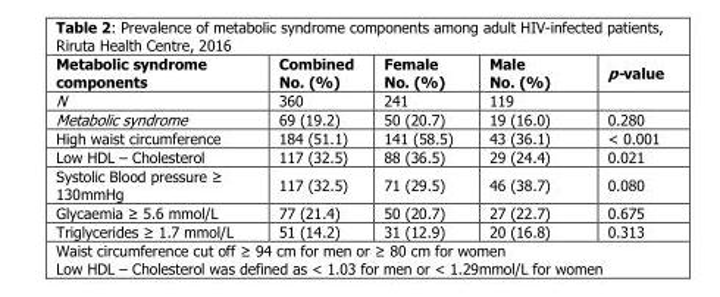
<table><thead><tr><td>Metabolic syndrome components</td><td>Combined No. (%)</td><td>Female No. (%)</td><td>Male No. (%)</td><td>p-value</td></tr></thead><tbody><tr><td>N</td><td>360</td><td>241</td><td>119</td><td></td></tr><tr><td>Metabolic syndrome</td><td>69 (19.2)</td><td>50 (20.7)</td><td>19 (16.0)</td><td>0.280</td></tr><tr><td>High waist circumference</td><td>184 (51.1)</td><td>141 (58.5)</td><td>43 (36.1)</td><td>&lt; 0.001</td></tr><tr><td>Low HDL – Cholesterol</td><td>117 (32.5)</td><td>88 (36.5)</td><td>29 (24.4)</td><td>0.021</td></tr><tr><td>Systolic Blood pressure ≥ 130mmHg</td><td>117 (32.5)</td><td>71 (29.5)</td><td>46 (38.7)</td><td>0.080</td></tr><tr><td>Glycaemia ≥ 5.6 mmol/L</td><td>77 (21.4)</td><td>50 (20.7)</td><td>27 (22.7)</td><td>0.675</td></tr><tr><td>Triglycerides ≥ 1.7 mmol/L</td><td>51 (14.2)</td><td>31 (12.9)</td><td>20 (16.8)</td><td>0.313</td></tr></tbody></table>